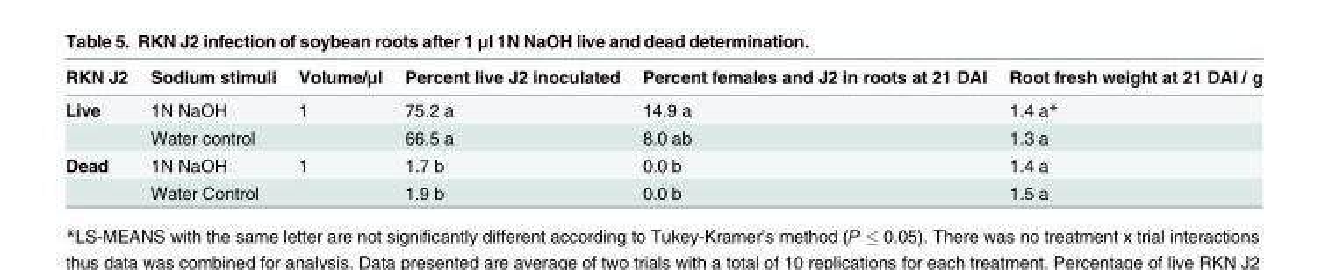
<table><thead><tr><td>RKN J2</td><td>Sodium stimuli</td><td>Volume/μl</td><td>Percent live J2 inoculated</td><td>Percent females and J2 in roots at 21 DAI</td><td>Root fresh weight at 21 DAI / g</td></tr></thead><tbody><tr><td rowspan="2">Live</td><td>1N NaOH</td><td>1</td><td>75.2 a</td><td>14.9 a</td><td>1.4 a*</td></tr><tr><td>Water control</td><td></td><td>66.5 a</td><td>8.0 ab</td><td>1.3 a</td></tr><tr><td rowspan="2">Dead</td><td>1N NaOH</td><td>1</td><td>1.7 b</td><td>0.0 b</td><td>1.4 a</td></tr><tr><td>Water Control</td><td></td><td>1.9 b</td><td>0.0 b</td><td>1.5 a</td></tr></tbody></table>